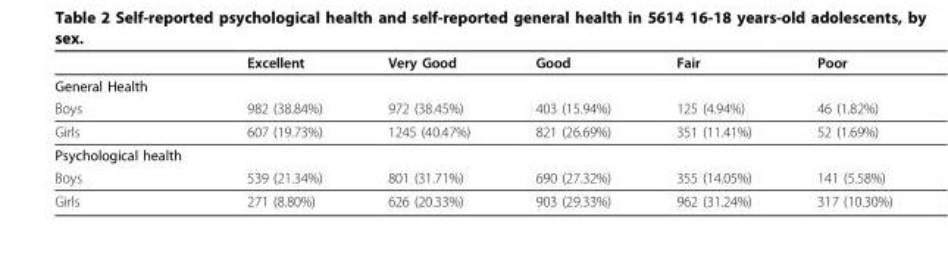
<table><thead><tr><td></td><td>Excellent</td><td>Very Good</td><td>Good</td><td>Fair</td><td>Poor</td></tr></thead><tbody><tr><td colspan="6">General Health</td></tr><tr><td>Boys</td><td>982 (38.84%)</td><td>972 (38.45%)</td><td>403 (15.94%)</td><td>125 (4.94%)</td><td>46 (1.82%)</td></tr><tr><td>Girls</td><td>607 (19.73%)</td><td>1245 (40.47%)</td><td>821 (26.69%)</td><td>351 (11.41%)</td><td>52 (1.69%)</td></tr><tr><td colspan="6">Psychological health</td></tr><tr><td>Boys</td><td>539 (21.34%)</td><td>801 (31.71%)</td><td>690 (27.32%)</td><td>355 (14.05%)</td><td>141 (5.58%)</td></tr><tr><td>Girls</td><td>271 (8.80%)</td><td>626 (20.33%)</td><td>903 (29.33%)</td><td>962 (31.24%)</td><td>317 (10.30%)</td></tr></tbody></table>